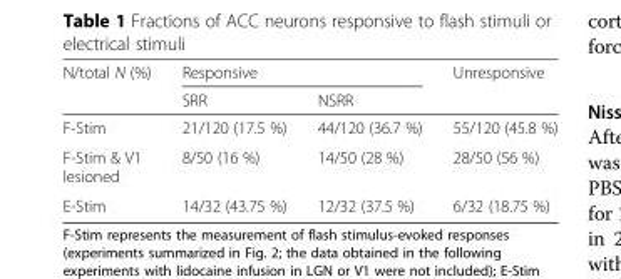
<table><thead><tr><td rowspan="2">N/total N (%)</td><td colspan="2">Responsive</td><td rowspan="2">Unresponsive</td></tr><tr><td>SRR</td><td>NSRR</td></tr></thead><tbody><tr><td>F-Stim</td><td>21/120 (17.5 %)</td><td>44/120 (36.7 %)</td><td>55/120 (45.8 %)</td></tr><tr><td>F-Stim &amp; V1 lesioned</td><td>8/50 (16 %)</td><td>14/50 (28 %)</td><td>28/50 (56 %)</td></tr><tr><td>E-Stim</td><td>14/32 (43.75 %)</td><td>12/32 (37.5 %)</td><td>6/32 (18.75 %)</td></tr></tbody></table>